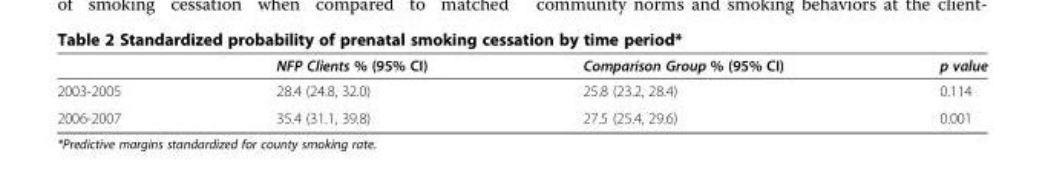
<table><thead><tr><td></td><td>NFP Clients % (95% CI)</td><td>Comparison Group % (95% CI)</td><td>p value</td></tr></thead><tbody><tr><td>2003-2005</td><td>28.4 (24.8, 32.0)</td><td>25.8 (23.2, 28.4)</td><td>0.114</td></tr><tr><td>2006-2007</td><td>35.4 (31.1, 39.8)</td><td>27.5 (25.4, 29.6)</td><td>0.001</td></tr></tbody></table>